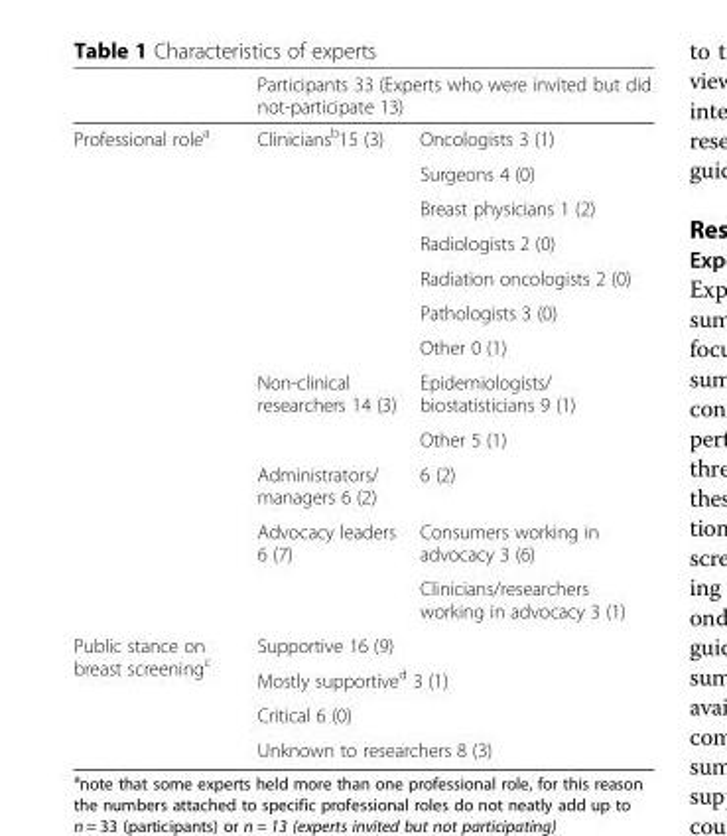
<table><thead><tr><td rowspan="2">Professional role<sup>a</sup></td><td colspan="2">Participants 33 (Experts who were invited but did not-participate 13)</td></tr><tr><td>Clinicians<sup>b</sup>15 (3)</td><td>Oncologists 3 (1)</td></tr></thead><tbody><tr><td></td><td></td><td>Surgeons 4 (0)</td></tr><tr><td></td><td></td><td>Breast physicians 1 (2)</td></tr><tr><td></td><td></td><td>Radiologists 2 (0)</td></tr><tr><td></td><td></td><td>Radiation oncologists 2 (0)</td></tr><tr><td></td><td></td><td>Pathologists 3 (0)</td></tr><tr><td></td><td></td><td>Other 0 (1)</td></tr><tr><td></td><td>Non-clinical researchers 14 (3)</td><td>Epidemiologists/ biostatisticians 9 (1)</td></tr><tr><td></td><td></td><td>Other 5 (1)</td></tr><tr><td></td><td>Administrators/ managers 6 (2)</td><td>6 (2)</td></tr><tr><td></td><td>Advocacy leaders 6 (7)</td><td>Consumers working in advocacy 3 (6)</td></tr><tr><td></td><td></td><td>Clinicians/researchers working in advocacy 3 (1)</td></tr><tr><td rowspan="4">Public stance on breast screening<sup>c</sup></td><td colspan="2">Supportive 16 (9)</td></tr><tr><td colspan="2">Mostly supportive<sup>d</sup> 3 (1)</td></tr><tr><td colspan="2">Critical 6 (0)</td></tr><tr><td colspan="2">Unknown to researchers 8 (3)</td></tr></tbody></table>